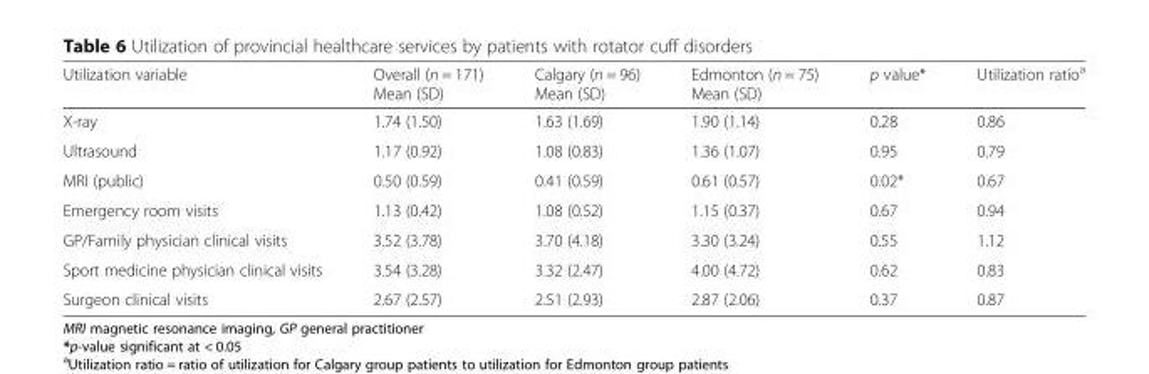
<table><thead><tr><td>Utilization variable</td><td>Overall (n = 171) Mean (SD)</td><td>Calgary (n = 96) Mean (SD)</td><td>Edmonton (n = 75) Mean (SD)</td><td>p value*</td><td>Utilization ratio<sup>a</sup></td></tr></thead><tbody><tr><td>X-ray</td><td>1.74 (1.50)</td><td>1.63 (1.69)</td><td>1.90 (1.14)</td><td>0.28</td><td>0.86</td></tr><tr><td>Ultrasound</td><td>1.17 (0.92)</td><td>1.08 (0.83)</td><td>1.36 (1.07)</td><td>0.95</td><td>0.79</td></tr><tr><td>MRI (public)</td><td>0.50 (0.59)</td><td>0.41 (0.59)</td><td>0.61 (0.57)</td><td>0.02*</td><td>0.67</td></tr><tr><td>Emergency room visits</td><td>1.13 (0.42)</td><td>1.08 (0.52)</td><td>1.15 (0.37)</td><td>0.67</td><td>0.94</td></tr><tr><td>GP/Family physician clinical visits</td><td>3.52 (3.78)</td><td>3.70 (4.18)</td><td>3.30 (3.24)</td><td>0.55</td><td>1.12</td></tr><tr><td>Sport medicine physician clinical visits</td><td>3.54 (3.28)</td><td>3.32 (2.47)</td><td>4.00 (4.72)</td><td>0.62</td><td>0.83</td></tr><tr><td>Surgeon clinical visits</td><td>2.67 (2.57)</td><td>2.51 (2.93)</td><td>2.87 (2.06)</td><td>0.37</td><td>0.87</td></tr></tbody></table>